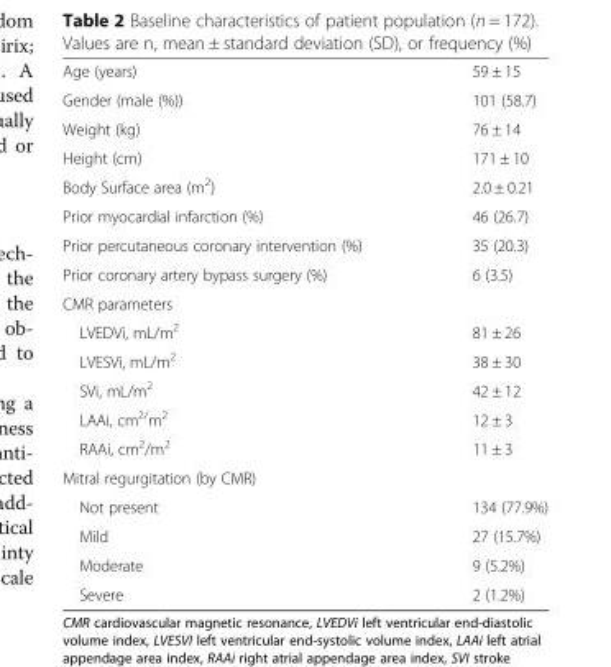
<table><tbody><tr><td>Age (years)</td><td>59 ± 15</td></tr><tr><td>Gender (male (%))</td><td>101 (58.7)</td></tr><tr><td>Weight (kg)</td><td>76 ± 14</td></tr><tr><td>Height (cm)</td><td>171 ± 10</td></tr><tr><td>Body Surface area (m<sup>2</sup>)</td><td>2.0 ± 0.21</td></tr><tr><td>Prior myocardial infarction (%)</td><td>46 (26.7)</td></tr><tr><td>Prior percutaneous coronary intervention (%)</td><td>35 (20.3)</td></tr><tr><td>Prior coronary artery bypass surgery (%)</td><td>6 (3.5)</td></tr><tr><td colspan="2">CMR parameters</td></tr><tr><td>LVEDVi, mL/m<sup>2</sup></td><td>81 ± 26</td></tr><tr><td>LVESVi, mL/m<sup>2</sup></td><td>38 ± 30</td></tr><tr><td>SVi, mL/m<sup>2</sup></td><td>42 ± 12</td></tr><tr><td>LAAi, cm<sup>2/</sup>m<sup>2</sup></td><td>12 ± 3</td></tr><tr><td>RAAi, cm<sup>2</sup>/m<sup>2</sup></td><td>11 ± 3</td></tr><tr><td colspan="2">Mitral regurgitation (by CMR)</td></tr><tr><td>Not present</td><td>134 (77.9%)</td></tr><tr><td>Mild</td><td>27 (15.7%)</td></tr><tr><td>Moderate</td><td>9 (5.2%)</td></tr><tr><td>Severe</td><td>2 (1.2%)</td></tr></tbody></table>